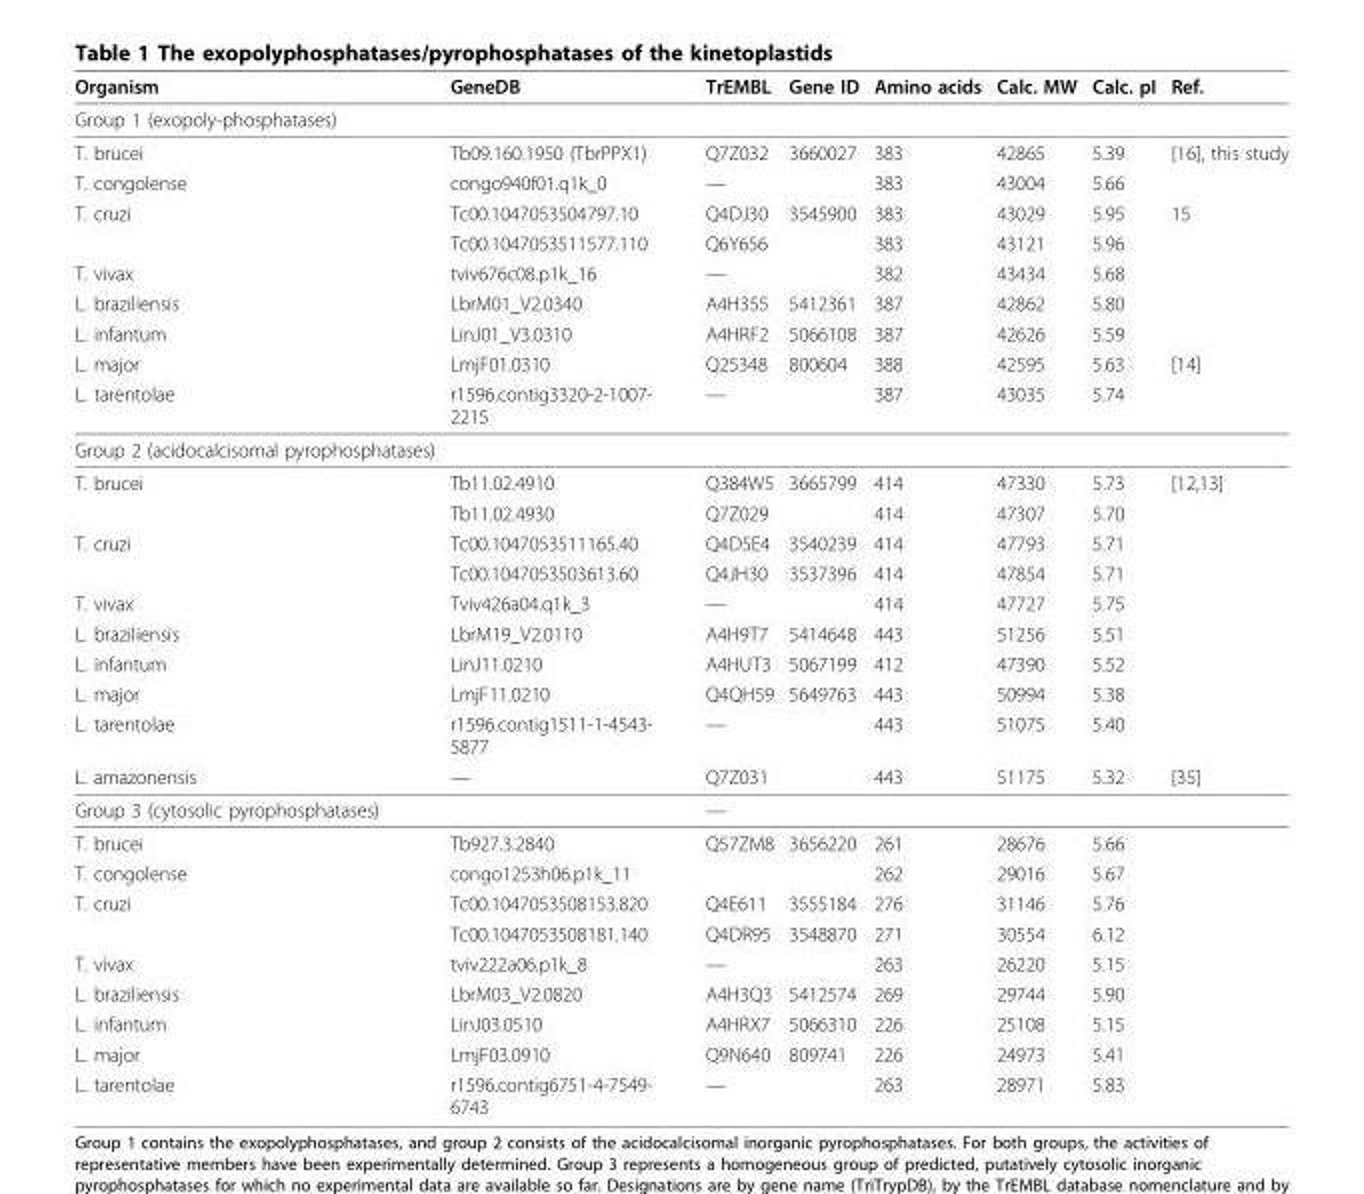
<table><thead><tr><td>Organism</td><td>GeneDB</td><td>TrEMBL</td><td>Gene ID</td><td>Amino acids</td><td>Calc. MW</td><td>Calc. pI</td><td>Ref.</td></tr></thead><tbody><tr><td colspan="8">Group 1 (exopoly-phosphatases)</td></tr><tr><td>T. brucei</td><td>Tb09.160.1950 (TbrPPX1)</td><td>Q7Z032</td><td>3660027</td><td>383</td><td>42865</td><td>5.39</td><td>[16], this study</td></tr><tr><td>T. congolense</td><td>congo940f01.q1k_0</td><td>—</td><td></td><td>383</td><td>43004</td><td>5.66</td><td></td></tr><tr><td rowspan="2">T. cruzi</td><td>Tc00.1047053504797.10</td><td>Q4DJ30</td><td>3545900</td><td>383</td><td>43029</td><td>5.95</td><td>15</td></tr><tr><td>Tc00.1047053511577.110</td><td>Q6Y656</td><td></td><td>383</td><td>43121</td><td>5.96</td><td></td></tr><tr><td>T. vivax</td><td>tviv676c08.p1k_16</td><td>—</td><td></td><td>382</td><td>43434</td><td>5.68</td><td></td></tr><tr><td>L. braziliensis</td><td>LbrM01_V2.0340</td><td>A4H355</td><td>5412361</td><td>387</td><td>42862</td><td>5.80</td><td></td></tr><tr><td>L. infantum</td><td>LinJ01_V3.0310</td><td>A4HRF2</td><td>5066108</td><td>387</td><td>42626</td><td>5.59</td><td></td></tr><tr><td>L. major</td><td>LmjF01.0310</td><td>Q25348</td><td>800604</td><td>388</td><td>42595</td><td>5.63</td><td>[14]</td></tr><tr><td>L. tarentolae</td><td>r1596.contig3320-2-1007- 2215</td><td>—</td><td></td><td>387</td><td>43035</td><td>5.74</td><td></td></tr><tr><td colspan="8">Group 2 (acidocalcisomal pyrophosphatases)</td></tr><tr><td rowspan="2">T. brucei</td><td>Tb11.02.4910</td><td>Q384W5</td><td>3665799</td><td>414</td><td>47330</td><td>5.73</td><td>[12,13]</td></tr><tr><td>Tb11.02.4930</td><td>Q7Z029</td><td></td><td>414</td><td>47307</td><td>5.70</td><td></td></tr><tr><td rowspan="2">T. cruzi</td><td>Tc00.1047053511165.40</td><td>Q4D5E4</td><td>3540239</td><td>414</td><td>47793</td><td>5.71</td><td></td></tr><tr><td>Tc00.1047053503613.60</td><td>Q4JH30</td><td>3537396</td><td>414</td><td>47854</td><td>5.71</td><td></td></tr><tr><td>T. vivax</td><td>Tviv426a04.q1k_3</td><td>—</td><td></td><td>414</td><td>47727</td><td>5.75</td><td></td></tr><tr><td>L. braziliensis</td><td>LbrM19_V2.0110</td><td>A4H9T7</td><td>5414648</td><td>443</td><td>51256</td><td>5.51</td><td></td></tr><tr><td>L. infantum</td><td>LinJ11.0210</td><td>A4HUT3</td><td>5067199</td><td>412</td><td>47390</td><td>5.52</td><td></td></tr><tr><td>L. major</td><td>LmjF11.0210</td><td>Q4QH59</td><td>5649763</td><td>443</td><td>50994</td><td>5.38</td><td></td></tr><tr><td>L. tarentolae</td><td>r1596.contig1511-1-4543- 5877</td><td>—</td><td></td><td>443</td><td>51075</td><td>5.40</td><td></td></tr><tr><td>L. amazonensis</td><td>—</td><td>Q7Z031</td><td></td><td>443</td><td>51175</td><td>5.32</td><td>[35]</td></tr><tr><td>Group 3 (cytosolic pyrophosphatases)</td><td></td><td>—</td><td></td><td></td><td></td><td></td><td></td></tr><tr><td>T. brucei</td><td>Tb927.3.2840</td><td>Q57ZM8</td><td>3656220</td><td>261</td><td>28676</td><td>5.66</td><td></td></tr><tr><td>T. congolense</td><td>congo1253h06.p1k_11</td><td></td><td></td><td>262</td><td>29016</td><td>5.67</td><td></td></tr><tr><td rowspan="2">T. cruzi</td><td>Tc00.1047053508153.820</td><td>Q4E611</td><td>3555184</td><td>276</td><td>31146</td><td>5.76</td><td></td></tr><tr><td>Tc00.1047053508181.140</td><td>Q4DR95</td><td>3548870</td><td>271</td><td>30554</td><td>6.12</td><td></td></tr><tr><td>T. vivax</td><td>tviv222a06.p1k_8</td><td>—</td><td></td><td>263</td><td>26220</td><td>5.15</td><td></td></tr><tr><td>L. braziliensis</td><td>LbrM03_V2.0820</td><td>A4H3Q3</td><td>5412574</td><td>269</td><td>29744</td><td>5.90</td><td></td></tr><tr><td>L. infantum</td><td>LinJ03.0510</td><td>A4HRX7</td><td>5066310</td><td>226</td><td>25108</td><td>5.15</td><td></td></tr><tr><td>L. major</td><td>LmjF03.0910</td><td>Q9N640</td><td>809741</td><td>226</td><td>24973</td><td>5.41</td><td></td></tr><tr><td>L. tarentolae</td><td>r1596.contig6751-4-7549- 6743</td><td>—</td><td></td><td>263</td><td>28971</td><td>5.83</td><td></td></tr></tbody></table>